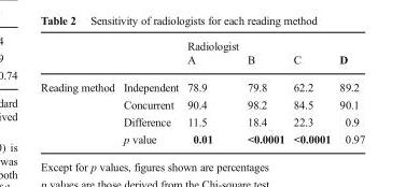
<table><thead><tr><td rowspan="2"></td><td rowspan="2"></td><td rowspan="2">Radiologist A</td><td rowspan="2">B</td><td rowspan="2">C</td><td rowspan="2">D</td></tr><tr></tr></thead><tbody><tr><td rowspan="4">Reading method</td><td>Independent</td><td>78.9</td><td>79.8</td><td>62.2</td><td>89.2</td></tr><tr><td>Concurrent</td><td>90.4</td><td>98.2</td><td>84.5</td><td>90.1</td></tr><tr><td>Difference</td><td>11.5</td><td>18.4</td><td>22.3</td><td>0.9</td></tr><tr><td>p value</td><td>0.01</td><td>&lt;0.0001</td><td>&lt;0.0001</td><td>0.97</td></tr></tbody></table>